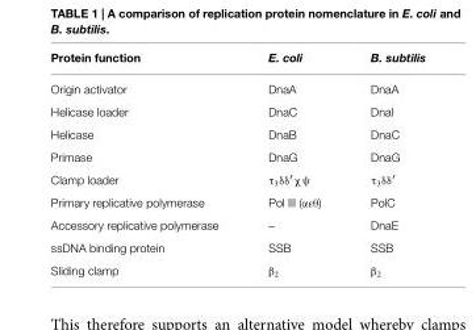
<table><thead><tr><td>Protein function</td><td>E. coli</td><td>B. subtilis</td></tr></thead><tbody><tr><td>Origin activator</td><td>DnaA</td><td>DnaA</td></tr><tr><td>Helicase loader</td><td>DnaC</td><td>DnaI</td></tr><tr><td>Helicase</td><td>DnaB</td><td>DnaC</td></tr><tr><td>Primase</td><td>DnaG</td><td>DnaG</td></tr><tr><td>Clamp loader</td><td>τ<sub>3</sub>δδ′χψ</td><td>τ<sub>3</sub>δδ′</td></tr><tr><td>Primary replicative polymerase</td><td>Pol III (αεθ)</td><td>PolC</td></tr><tr><td>Accessory replicative polymerase</td><td>–</td><td>DnaE</td></tr><tr><td>ssDNA binding protein</td><td>SSB</td><td>SSB</td></tr><tr><td>Sliding clamp</td><td>β<sub>2</sub></td><td>β<sub>2</sub></td></tr></tbody></table>